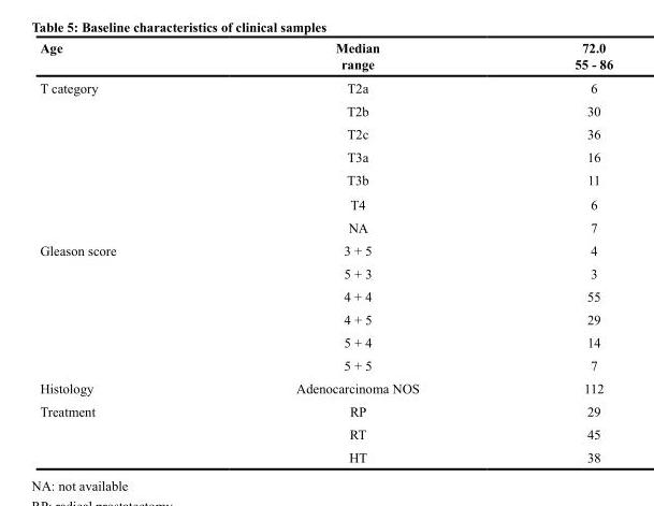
<table><thead><tr><td>Age</td><td>Median range</td><td>72.0 55 - 86</td></tr></thead><tbody><tr><td rowspan="7">T category</td><td>T2a</td><td>6</td></tr><tr><td>T2b</td><td>30</td></tr><tr><td>T2c</td><td>36</td></tr><tr><td>T3a</td><td>16</td></tr><tr><td>T3b</td><td>11</td></tr><tr><td>T4</td><td>6</td></tr><tr><td>NA</td><td>7</td></tr><tr><td rowspan="6">Gleason score</td><td>3 + 5</td><td>4</td></tr><tr><td>5 + 3</td><td>3</td></tr><tr><td>4 + 4</td><td>55</td></tr><tr><td>4 + 5</td><td>29</td></tr><tr><td>5 + 4</td><td>14</td></tr><tr><td>5 + 5</td><td>7</td></tr><tr><td>Histology</td><td>Adenocarcinoma NOS</td><td>112</td></tr><tr><td rowspan="3">Treatment</td><td>RP</td><td>29</td></tr><tr><td>RT</td><td>45</td></tr><tr><td>HT</td><td>38</td></tr></tbody></table>